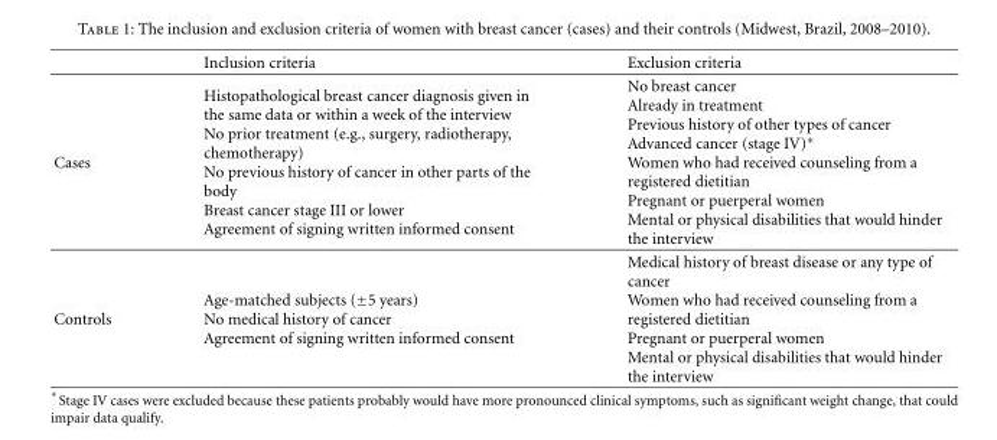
<table><thead><tr><td></td><td>Inclusion criteria</td><td>Exclusion criteria</td></tr></thead><tbody><tr><td>Cases</td><td>Histopathological breast cancer diagnosis given in the same data or within a week of the interview No prior treatment (e.g., surgery, radiotherapy, chemotherapy) No previous history of cancer in other parts of the body Breast cancer stage III or lower Agreement of signing written informed consent</td><td>No breast cancer Already in treatment Previous history of other types of cancer Advanced cancer (stage IV)∗ Women who had received counseling from a registered dietitian Pregnant or puerperal women Mental or physical disabilities that would hinder the interview</td></tr><tr><td>Controls</td><td>Age-matched subjects (±5 years) No medical history of cancer Agreement of signing written informed consent</td><td>Medical history of breast disease or any type of cancer Women who had received counseling from a registered dietitian Pregnant or puerperal women Mental or physical disabilities that would hinder the interview</td></tr></tbody></table>